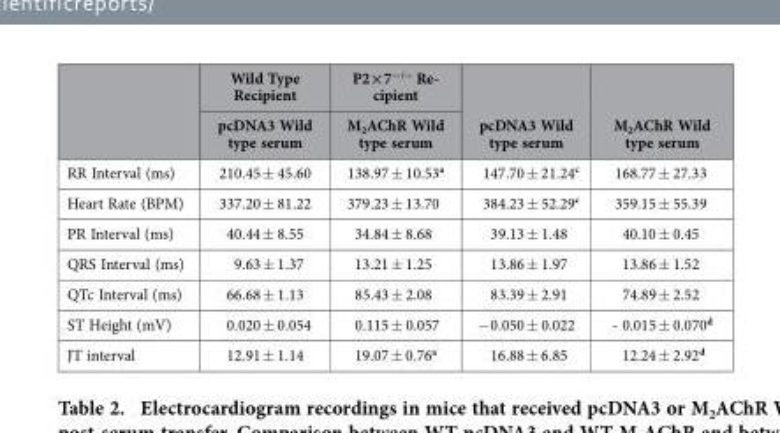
<table><thead><tr><td rowspan="2"></td><td rowspan="2">Wild Type Recipient pcDNA3 Wild type serum</td><td rowspan="2">P2×7−/− Re- cipient M2AChR Wild type serum</td><td rowspan="2">pcDNA3 Wild type serum</td><td rowspan="2">M<sub>2</sub>AChR Wild type serum</td></tr><tr></tr></thead><tbody><tr><td>RR Interval (ms)</td><td>210.45 ± 45.60</td><td>138.97 ± 10.53<sup>a</sup></td><td>147.70 ± 21.24<sup>c</sup></td><td>168.77 ± 27.33</td></tr><tr><td>Heart Rate (BPM)</td><td>337.20 ± 81.22</td><td>379.23 ± 13.70</td><td>384.23 ± 52.29<sup>c</sup></td><td>359.15 ± 55.39</td></tr><tr><td>PR Interval (ms)</td><td>40.44 ± 8.55</td><td>34.84 ± 8.68</td><td>39.13 ± 1.48</td><td>40.10 ± 0.45</td></tr><tr><td>QRS Interval (ms)</td><td>9.63 ± 1.37</td><td>13.21 ± 1.25</td><td>13.86 ± 1.97</td><td>13.86 ± 1.52</td></tr><tr><td>QTc Interval (ms)</td><td>66.68 ± 1.13</td><td>85.43 ± 2.08</td><td>83.39 ± 2.91</td><td>74.89 ± 2.52</td></tr><tr><td>ST Height (mV)</td><td>0.020 ± 0.054</td><td>0.115 ± 0.057</td><td>− 0.050 ± 0.022</td><td>- 0.015 ± 0.070<sup>d</sup></td></tr><tr><td>JT interval</td><td>12.91 ± 1.14</td><td>19.07 ± 0.76<sup>a</sup></td><td>16.88 ± 6.85</td><td>12.24 ± 2.92<sup>d</sup></td></tr></tbody></table>